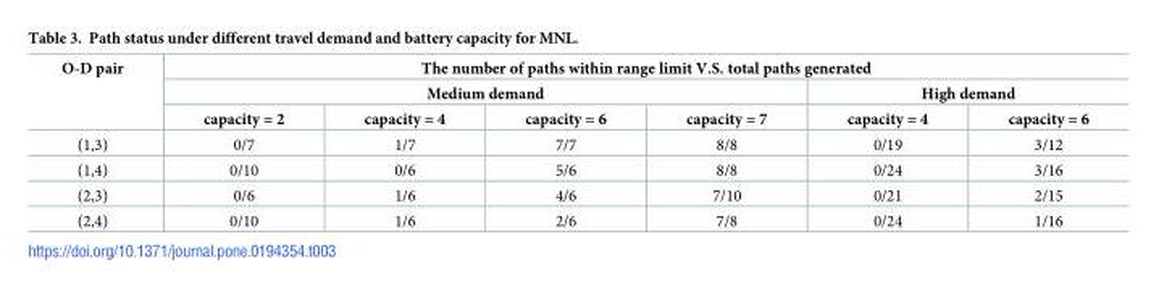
<table><thead><tr><td rowspan="3">O-D pair</td><td colspan="6">The number of paths within range limit V.S. total paths generated</td></tr><tr><td colspan="4">Medium demand</td><td colspan="2">High demand</td></tr><tr><td>capacity = 2</td><td>capacity = 4</td><td>capacity = 6</td><td>capacity = 7</td><td>capacity = 4</td><td>capacity = 6</td></tr></thead><tbody><tr><td>(1,3)</td><td>0/7</td><td>1/7</td><td>7/7</td><td>8/8</td><td>0/19</td><td>3/12</td></tr><tr><td>(1,4)</td><td>0/10</td><td>0/6</td><td>5/6</td><td>8/8</td><td>0/24</td><td>3/16</td></tr><tr><td>(2,3)</td><td>0/6</td><td>1/6</td><td>4/6</td><td>7/10</td><td>0/21</td><td>2/15</td></tr><tr><td>(2,4)</td><td>0/10</td><td>1/6</td><td>2/6</td><td>7/8</td><td>0/24</td><td>1/16</td></tr></tbody></table>